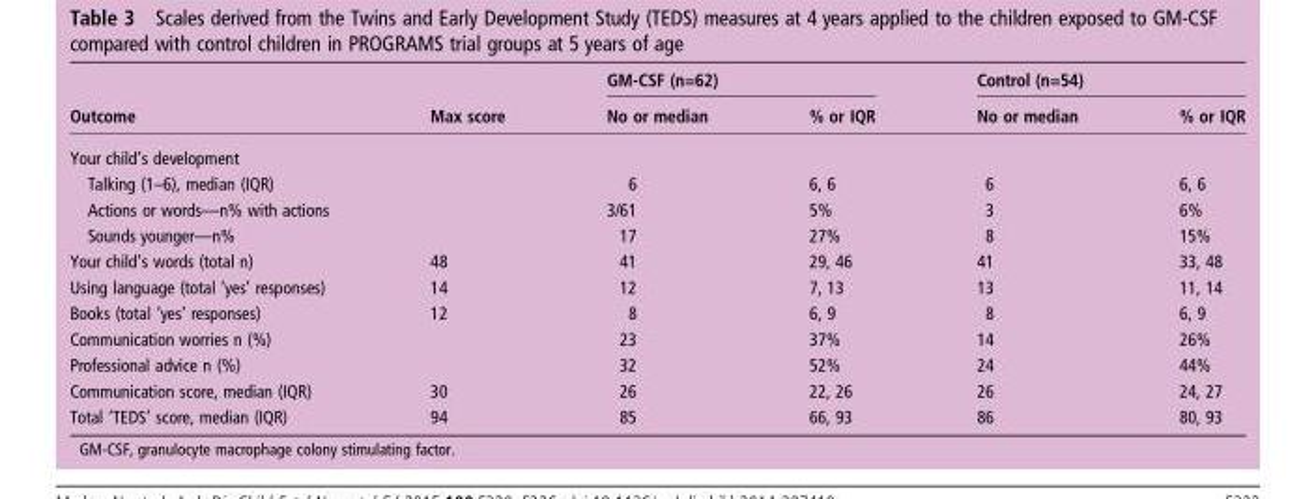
<table><thead><tr><td rowspan="2">Outcome</td><td rowspan="2">Max score</td><td colspan="2">GM-CSF (n=62)</td><td colspan="2">Control (n=54)</td></tr><tr><td>No or median</td><td>% or IQR</td><td>No or median</td><td>% or IQR</td></tr></thead><tbody><tr><td colspan="6">Your child’s development</td></tr><tr><td>Talking (1–6), median (IQR)</td><td></td><td>6</td><td>6, 6</td><td>6</td><td>6, 6</td></tr><tr><td>Actions or words—n% with actions</td><td></td><td>3/61</td><td>5%</td><td>3</td><td>6%</td></tr><tr><td>Sounds younger—n%</td><td></td><td>17</td><td>27%</td><td>8</td><td>15%</td></tr><tr><td>Your child’s words (total n)</td><td>48</td><td>41</td><td>29, 46</td><td>41</td><td>33, 48</td></tr><tr><td>Using language (total ‘yes’ responses)</td><td>14</td><td>12</td><td>7, 13</td><td>13</td><td>11, 14</td></tr><tr><td>Books (total ‘yes’ responses)</td><td>12</td><td>8</td><td>6, 9</td><td>8</td><td>6, 9</td></tr><tr><td>Communication worries n (%)</td><td></td><td>23</td><td>37%</td><td>14</td><td>26%</td></tr><tr><td>Professional advice n (%)</td><td></td><td>32</td><td>52%</td><td>24</td><td>44%</td></tr><tr><td>Communication score, median (IQR)</td><td>30</td><td>26</td><td>22, 26</td><td>26</td><td>24, 27</td></tr><tr><td>Total ‘TEDS’ score, median (IQR)</td><td>94</td><td>85</td><td>66, 93</td><td>86</td><td>80, 93</td></tr></tbody></table>